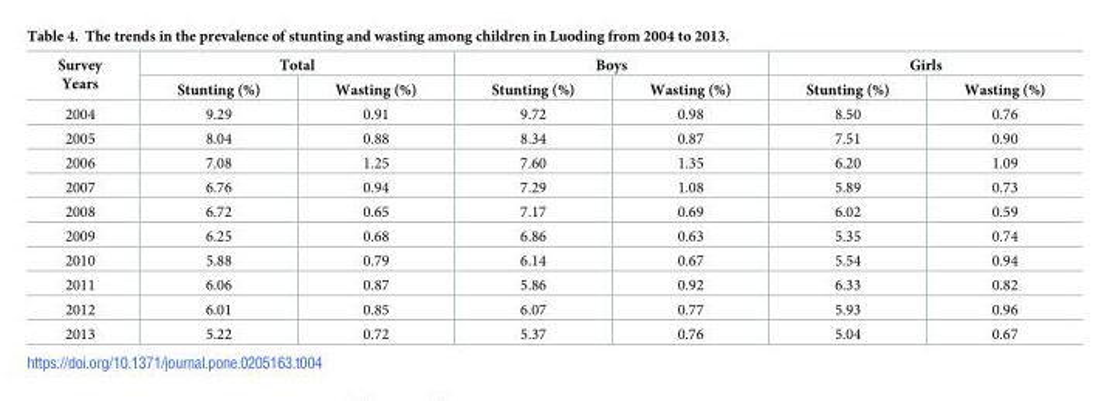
<table><thead><tr><td rowspan="2">Survey Years</td><td colspan="2">Total</td><td colspan="2">Boys</td><td colspan="2">Girls</td></tr><tr><td>Stunting (%)</td><td>Wasting (%)</td><td>Stunting (%)</td><td>Wasting (%)</td><td>Stunting (%)</td><td>Wasting (%)</td></tr></thead><tbody><tr><td>2004</td><td>9.29</td><td>0.91</td><td>9.72</td><td>0.98</td><td>8.50</td><td>0.76</td></tr><tr><td>2005</td><td>8.04</td><td>0.88</td><td>8.34</td><td>0.87</td><td>7.51</td><td>0.90</td></tr><tr><td>2006</td><td>7.08</td><td>1.25</td><td>7.60</td><td>1.35</td><td>6.20</td><td>1.09</td></tr><tr><td>2007</td><td>6.76</td><td>0.94</td><td>7.29</td><td>1.08</td><td>5.89</td><td>0.73</td></tr><tr><td>2008</td><td>6.72</td><td>0.65</td><td>7.17</td><td>0.69</td><td>6.02</td><td>0.59</td></tr><tr><td>2009</td><td>6.25</td><td>0.68</td><td>6.86</td><td>0.63</td><td>5.35</td><td>0.74</td></tr><tr><td>2010</td><td>5.88</td><td>0.79</td><td>6.14</td><td>0.67</td><td>5.54</td><td>0.94</td></tr><tr><td>2011</td><td>6.06</td><td>0.87</td><td>5.86</td><td>0.92</td><td>6.33</td><td>0.82</td></tr><tr><td>2012</td><td>6.01</td><td>0.85</td><td>6.07</td><td>0.77</td><td>5.93</td><td>0.96</td></tr><tr><td>2013</td><td>5.22</td><td>0.72</td><td>5.37</td><td>0.76</td><td>5.04</td><td>0.67</td></tr></tbody></table>